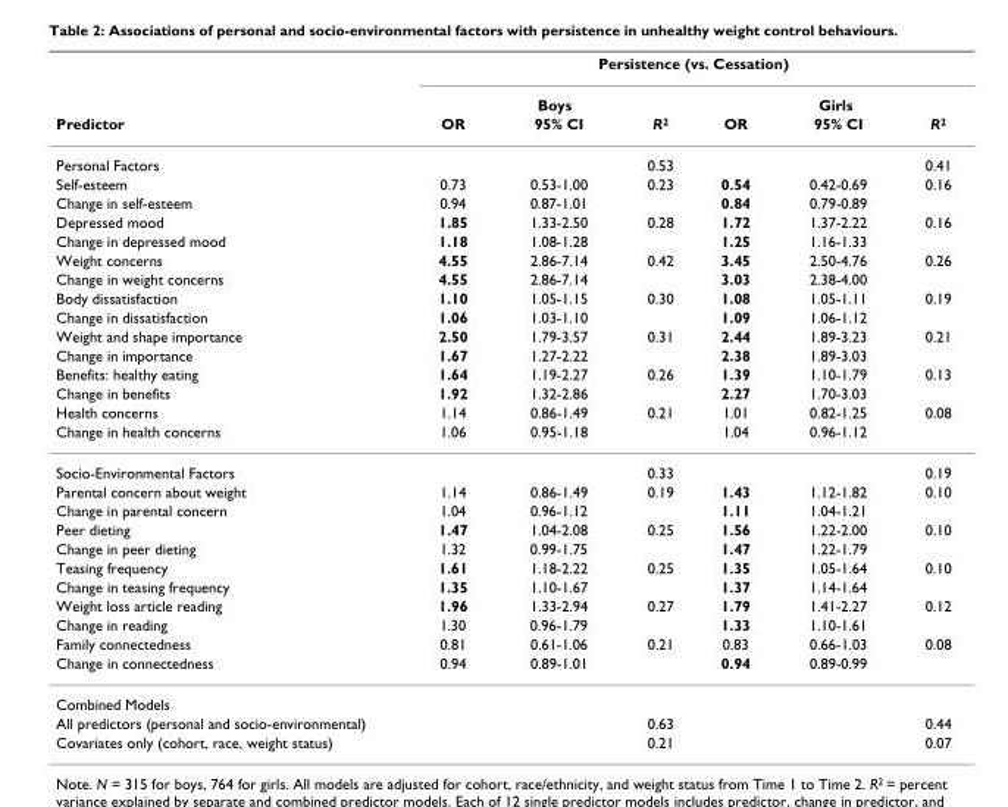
<table><thead><tr><td rowspan="3">Predictor</td><td colspan="6">Persistence (vs. Cessation)</td></tr><tr><td colspan="3">Boys</td><td colspan="3">Girls</td></tr><tr><td>OR</td><td>95% CI</td><td>R<sup>2</sup></td><td>OR</td><td>95% CI</td><td>R<sup>2</sup></td></tr></thead><tbody><tr><td>Personal Factors</td><td></td><td></td><td>0.53</td><td></td><td></td><td>0.41</td></tr><tr><td>Self-esteem</td><td>0.73</td><td>0.53-1.00</td><td>0.23</td><td>0.54</td><td>0.42-0.69</td><td>0.16</td></tr><tr><td>Change in self-esteem</td><td>0.94</td><td>0.87-1.01</td><td></td><td>0.84</td><td>0.79-0.89</td><td></td></tr><tr><td>Depressed mood</td><td>1.85</td><td>1.33-2.50</td><td>0.28</td><td>1.72</td><td>1.37-2.22</td><td>0.16</td></tr><tr><td>Change in depressed mood</td><td>1.18</td><td>1.08-1.28</td><td></td><td>1.25</td><td>1.16-1.33</td><td></td></tr><tr><td>Weight concerns</td><td>4.55</td><td>2.86-7.14</td><td>0.42</td><td>3.45</td><td>2.50-4.76</td><td>0.26</td></tr><tr><td>Change in weight concerns</td><td>4.55</td><td>2.86-7.14</td><td></td><td>3.03</td><td>2.38-4.00</td><td></td></tr><tr><td>Body dissatisfaction</td><td>1.10</td><td>1.05-1.15</td><td>0.30</td><td>1.08</td><td>1.05-1.11</td><td>0.19</td></tr><tr><td>Change in dissatisfaction</td><td>1.06</td><td>1.03-1.10</td><td></td><td>1.09</td><td>1.06-1.12</td><td></td></tr><tr><td>Weight and shape importance</td><td>2.50</td><td>1.79-3.57</td><td>0.31</td><td>2.44</td><td>1.89-3.23</td><td>0.21</td></tr><tr><td>Change in importance</td><td>1.67</td><td>1.27-2.22</td><td></td><td>2.38</td><td>1.89-3.03</td><td></td></tr><tr><td>Benefits: healthy eating</td><td>1.64</td><td>1.19-2.27</td><td>0.26</td><td>1.39</td><td>1.10-1.79</td><td>0.13</td></tr><tr><td>Change in benefits</td><td>1.92</td><td>1.32-2.86</td><td></td><td>2.27</td><td>1.70-3.03</td><td></td></tr><tr><td>Health concerns</td><td>1.14</td><td>0.86-1.49</td><td>0.21</td><td>1.01</td><td>0.82-1.25</td><td>0.08</td></tr><tr><td>Change in health concerns</td><td>1.06</td><td>0.95-1.18</td><td></td><td>1.04</td><td>0.96-1.12</td><td></td></tr><tr><td>Socio-Environmental Factors</td><td></td><td></td><td>0.33</td><td></td><td></td><td>0.19</td></tr><tr><td>Parental concern about weight</td><td>1.14</td><td>0.86-1.49</td><td>0.19</td><td>1.43</td><td>1.12-1.82</td><td>0.10</td></tr><tr><td>Change in parental concern</td><td>1.04</td><td>0.96-1.12</td><td></td><td>1.11</td><td>1.04-1.21</td><td></td></tr><tr><td>Peer dieting</td><td>1.47</td><td>1.04-2.08</td><td>0.25</td><td>1.56</td><td>1.22-2.00</td><td>0.10</td></tr><tr><td>Change in peer dieting</td><td>1.32</td><td>0.99-1.75</td><td></td><td>1.47</td><td>1.22-1.79</td><td></td></tr><tr><td>Teasing frequency</td><td>1.61</td><td>1.18-2.22</td><td>0.25</td><td>1.35</td><td>1.05-1.64</td><td>0.10</td></tr><tr><td>Change in teasing frequency</td><td>1.35</td><td>1.10-1.67</td><td></td><td>1.37</td><td>1.14-1.64</td><td></td></tr><tr><td>Weight loss article reading</td><td>1.96</td><td>1.33-2.94</td><td>0.27</td><td>1.79</td><td>1.41-2.27</td><td>0.12</td></tr><tr><td>Change in reading</td><td>1.30</td><td>0.96-1.79</td><td></td><td>1.33</td><td>1.10-1.61</td><td></td></tr><tr><td>Family connectedness</td><td>0.81</td><td>0.61-1.06</td><td>0.21</td><td>0.83</td><td>0.66-1.03</td><td>0.08</td></tr><tr><td>Change in connectedness</td><td>0.94</td><td>0.89-1.01</td><td></td><td>0.94</td><td>0.89-0.99</td><td></td></tr><tr><td colspan="7">Combined Models</td></tr><tr><td colspan="3">All predictors (personal and socio-environmental)</td><td>0.63</td><td></td><td></td><td>0.44</td></tr><tr><td colspan="3">Covariates only (cohort, race, weight status)</td><td>0.21</td><td></td><td></td><td>0.07</td></tr></tbody></table>